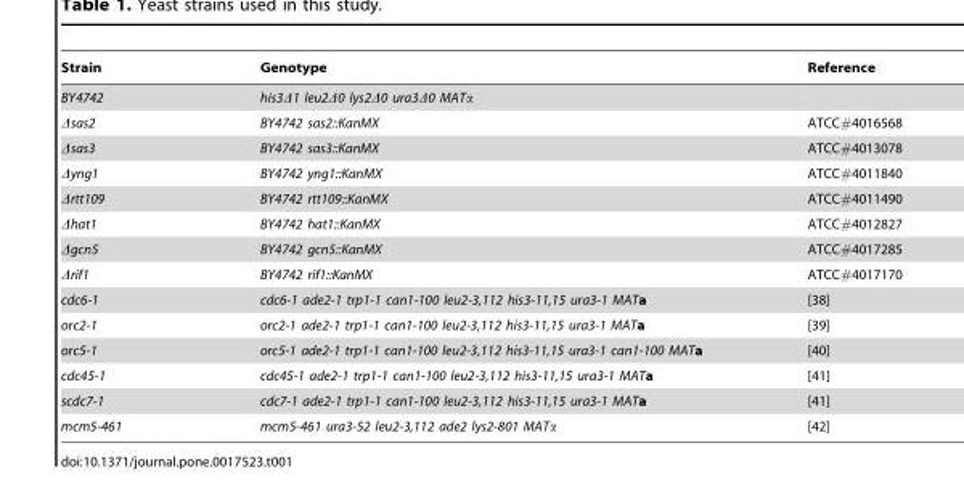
<table><thead><tr><td>Strain</td><td>Genotype</td><td>Reference</td></tr></thead><tbody><tr><td>BY4742</td><td>his3Δ1 leu2Δ0 lys2Δ0 ura3Δ0 MATα</td><td></td></tr><tr><td>Δsas2</td><td>BY4742 sas2::KanMX</td><td>ATCC#4016568</td></tr><tr><td>Δsas3</td><td>BY4742 sas3::KanMX</td><td>ATCC#4013078</td></tr><tr><td>Δyng1</td><td>BY4742 yng1::KanMX</td><td>ATCC#4011840</td></tr><tr><td>Δrtt109</td><td>BY4742 rtt109::KanMX</td><td>ATCC#4011490</td></tr><tr><td>Δhat1</td><td>BY4742 hat1::KanMX</td><td>ATCC#4012827</td></tr><tr><td>Δgcn5</td><td>BY4742 gcn5::KanMX</td><td>ATCC#4017285</td></tr><tr><td>Δrif1</td><td>BY4742 rif1::KanMX</td><td>ATCC#4017170</td></tr><tr><td>cdc6-1</td><td>cdc6-1 ade2-1 trp1-1 can1-100 leu2-3,112 his3-11,15 ura3-1 MATa</td><td>[38]</td></tr><tr><td>orc2-1</td><td>orc2-1 ade2-1 trp1-1 can1-100 leu2-3,112 his3-11,15 ura3-1 MATa</td><td>[39]</td></tr><tr><td>orc5-1</td><td>orc5-1 ade2-1 trp1-1 can1-100 leu2-3,112 his3-11,15 ura3-1 can1-100 MATa</td><td>[40]</td></tr><tr><td>cdc45-1</td><td>cdc45-1 ade2-1 trp1-1 can1-100 leu2-3,112 his3-11,15 ura3-1 MATa</td><td>[41]</td></tr><tr><td>scdc7-1</td><td>cdc7-1 ade2-1 trp1-1 can1-100 leu2-3,112 his3-11,15 ura3-1 MATa</td><td>[41]</td></tr><tr><td>mcm5-461</td><td>mcm5-461 ura3-52 leu2-3,112 ade2 lys2-801 MATα</td><td>[42]</td></tr></tbody></table>